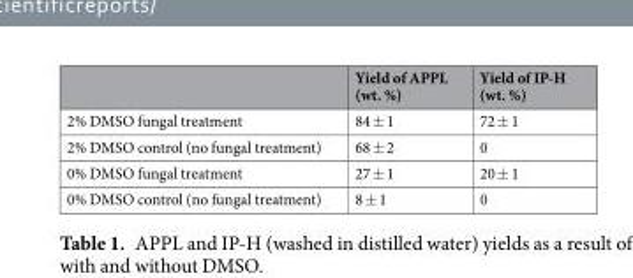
<table><thead><tr><td></td><td>Yield of APPL (wt. %)</td><td>Yield of IP-H (wt. %)</td></tr></thead><tbody><tr><td>2% DMSO fungal treatment</td><td>84 ± 1</td><td>72 ± 1</td></tr><tr><td>2% DMSO control (no fungal treatment)</td><td>68 ± 2</td><td>0</td></tr><tr><td>0% DMSO fungal treatment</td><td>27 ± 1</td><td>20 ± 1</td></tr><tr><td>0% DMSO control (no fungal treatment)</td><td>8 ± 1</td><td>0</td></tr></tbody></table>